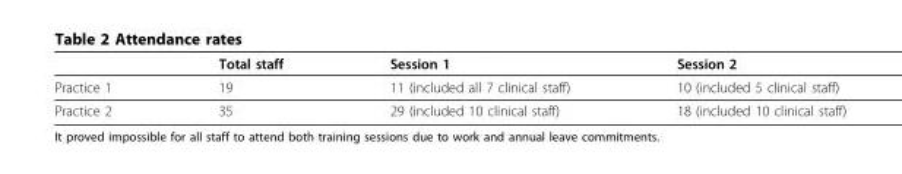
<table><thead><tr><td></td><td>Total staff</td><td>Session 1</td><td>Session 2</td></tr></thead><tbody><tr><td>Practice 1</td><td>19</td><td>11 (included all 7 clinical staff)</td><td>10 (included 5 clinical staff)</td></tr><tr><td>Practice 2</td><td>35</td><td>29 (included 10 clinical staff)</td><td>18 (included 10 clinical staff)</td></tr></tbody></table>